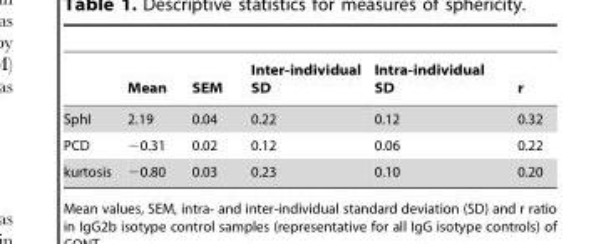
<table><thead><tr><td></td><td>Mean</td><td>SEM</td><td>Inter-individual SD</td><td>Intra-individual SD</td><td>r</td></tr></thead><tbody><tr><td>SphI</td><td>2.19</td><td>0.04</td><td>0.22</td><td>0.12</td><td>0.32</td></tr><tr><td>PCD</td><td>−0.31</td><td>0.02</td><td>0.12</td><td>0.06</td><td>0.22</td></tr><tr><td>kurtosis</td><td>−0.80</td><td>0.03</td><td>0.23</td><td>0.10</td><td>0.20</td></tr></tbody></table>